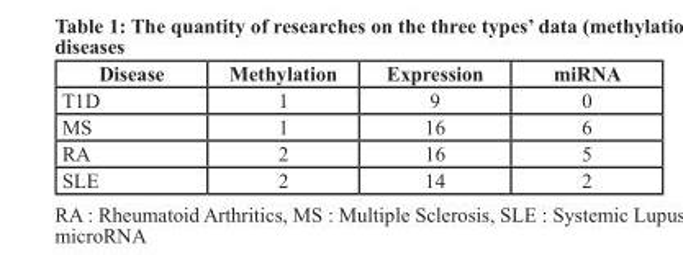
<table><thead><tr><td>Disease</td><td>Methylation</td><td>Expression</td><td>miRNA</td></tr></thead><tbody><tr><td>T1D</td><td>1</td><td>9</td><td>0</td></tr><tr><td>MS</td><td>1</td><td>16</td><td>6</td></tr><tr><td>RA</td><td>2</td><td>16</td><td>5</td></tr><tr><td>SLE</td><td>2</td><td>14</td><td>2</td></tr></tbody></table>